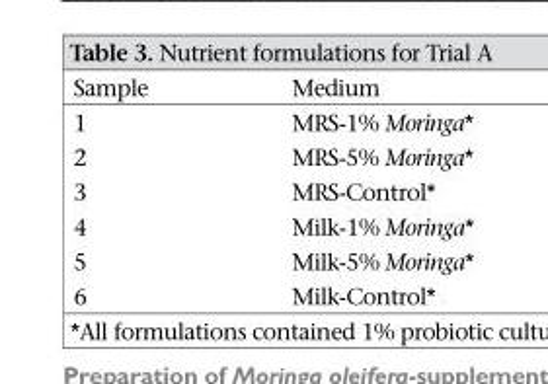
<table><thead><tr><td>Sample</td><td>Medium</td></tr></thead><tbody><tr><td>1</td><td>MRS-1% Moringa*</td></tr><tr><td>2</td><td>MRS-5% Moringa*</td></tr><tr><td>3</td><td>MRS-Control*</td></tr><tr><td>4</td><td>Milk-1% Moringa*</td></tr><tr><td>5</td><td>Milk-5% Moringa*</td></tr><tr><td>6</td><td>Milk-Control*</td></tr></tbody></table>